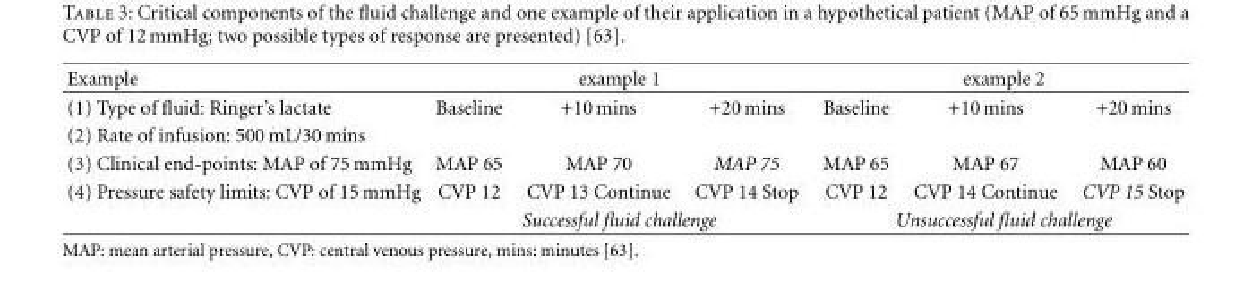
<table><thead><tr><td rowspan="2">Example (1) Type of fluid: Ringer’s lactate</td><td colspan="3">example 1</td><td colspan="3">example 2</td></tr><tr><td>Baseline</td><td>+10 mins</td><td>+20 mins</td><td>Baseline</td><td>+10 mins</td><td>+20 mins</td></tr></thead><tbody><tr><td colspan="7">(2) Rate of infusion: 500 mL/30 mins</td></tr><tr><td>(3) Clinical end-points: MAP of 75 mmHg</td><td>MAP 65</td><td>MAP 70</td><td>MAP 75</td><td>MAP 65</td><td>MAP 67</td><td>MAP 60</td></tr><tr><td rowspan="2">(4) Pressure safety limits: CVP of 15 mmHg</td><td>CVP 12</td><td>CVP 13 Continue</td><td>CVP 14 Stop</td><td>CVP 12</td><td>CVP 14 Continue</td><td>CVP 15 Stop</td></tr><tr><td colspan="3">Successful fluid challenge</td><td colspan="3">Unsuccessful fluid challenge</td></tr></tbody></table>